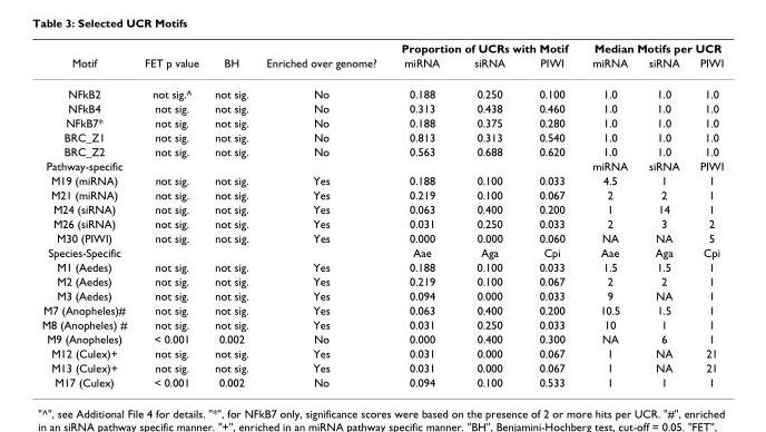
<table><thead><tr><td rowspan="2">Motif</td><td rowspan="2">FET p value</td><td rowspan="2">BH</td><td rowspan="2">Enriched over genome?</td><td colspan="3">Proportion of UCRs with Motif</td><td colspan="3">Median Motifs per UCR</td></tr><tr><td>miRNA</td><td>siRNA</td><td>PIWI</td><td>miRNA</td><td>siRNA</td><td>PIWI</td></tr></thead><tbody><tr><td>NFkB2</td><td>not sig.^</td><td>not sig.</td><td>No</td><td>0.188</td><td>0.250</td><td>0.100</td><td>1.0</td><td>1.0</td><td>1.0</td></tr><tr><td>NFkB4</td><td>not sig.</td><td>not sig.</td><td>No</td><td>0.313</td><td>0.438</td><td>0.460</td><td>1.0</td><td>1.0</td><td>1.0</td></tr><tr><td>NFkB7*</td><td>not sig.</td><td>not sig.</td><td>No</td><td>0.188</td><td>0.375</td><td>0.280</td><td>1.0</td><td>1.0</td><td>1.0</td></tr><tr><td>BRC_Z1</td><td>not sig.</td><td>not sig.</td><td>No</td><td>0.813</td><td>0.313</td><td>0.540</td><td>1.0</td><td>1.0</td><td>1.0</td></tr><tr><td>BRC_Z2</td><td>not sig.</td><td>not sig.</td><td>No</td><td>0.563</td><td>0.688</td><td>0.620</td><td>1.0</td><td>1.0</td><td>1.0</td></tr><tr><td>Pathway-specific</td><td></td><td></td><td></td><td></td><td></td><td></td><td>miRNA</td><td>siRNA</td><td>PIWI</td></tr><tr><td>M19 (miRNA)</td><td>not sig.</td><td>not sig.</td><td>Yes</td><td>0.188</td><td>0.100</td><td>0.033</td><td>4.5</td><td>1</td><td>1</td></tr><tr><td>M21 (miRNA)</td><td>not sig.</td><td>not sig.</td><td>Yes</td><td>0.219</td><td>0.100</td><td>0.067</td><td>2</td><td>2</td><td>1</td></tr><tr><td>M24 (siRNA)</td><td>not sig.</td><td>not sig.</td><td>Yes</td><td>0.063</td><td>0.400</td><td>0.200</td><td>1</td><td>14</td><td>1</td></tr><tr><td>M26 (siRNA)</td><td>not sig.</td><td>not sig.</td><td>Yes</td><td>0.031</td><td>0.250</td><td>0.033</td><td>2</td><td>3</td><td>2</td></tr><tr><td>M30 (PIWI)</td><td>not sig.</td><td>not sig.</td><td>Yes</td><td>0.000</td><td>0.000</td><td>0.060</td><td>NA</td><td>NA</td><td>5</td></tr><tr><td>Species-Specific</td><td></td><td></td><td></td><td>Aae</td><td>Aga</td><td>Cpi</td><td>Aae</td><td>Aga</td><td>Cpi</td></tr><tr><td>M1 (Aedes)</td><td>not sig.</td><td>not sig.</td><td>Yes</td><td>0.188</td><td>0.100</td><td>0.033</td><td>1.5</td><td>1.5</td><td>1</td></tr><tr><td>M2 (Aedes)</td><td>not sig.</td><td>not sig.</td><td>Yes</td><td>0.219</td><td>0.100</td><td>0.067</td><td>2</td><td>2</td><td>1</td></tr><tr><td>M3 (Aedes)</td><td>not sig.</td><td>not sig.</td><td>Yes</td><td>0.094</td><td>0.000</td><td>0.033</td><td>9</td><td>NA</td><td>1</td></tr><tr><td>M7 (Anopheles)#</td><td>not sig.</td><td>not sig.</td><td>Yes</td><td>0.063</td><td>0.400</td><td>0.200</td><td>10.5</td><td>1.5</td><td>1</td></tr><tr><td>M8 (Anopheles) #</td><td>not sig.</td><td>not sig.</td><td>Yes</td><td>0.031</td><td>0.250</td><td>0.033</td><td>10</td><td>1</td><td>1</td></tr><tr><td>M9 (Anopheles)</td><td>&lt; 0.001</td><td>0.002</td><td>No</td><td>0.000</td><td>0.400</td><td>0.300</td><td>NA</td><td>6</td><td>1</td></tr><tr><td>M12 (Culex)+</td><td>not sig.</td><td>not sig.</td><td>Yes</td><td>0.031</td><td>0.000</td><td>0.067</td><td>1</td><td>NA</td><td>21</td></tr><tr><td>M13 (Culex)+</td><td>not sig.</td><td>not sig.</td><td>Yes</td><td>0.031</td><td>0.000</td><td>0.067</td><td>1</td><td>NA</td><td>21</td></tr><tr><td>M17 (Culex)</td><td>&lt; 0.001</td><td>0.002</td><td>No</td><td>0.094</td><td>0.100</td><td>0.533</td><td>1</td><td>1</td><td>1</td></tr></tbody></table>